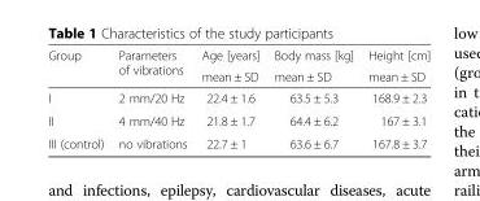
<table><thead><tr><td rowspan="2">Group</td><td rowspan="2">Parameters of vibrations</td><td rowspan="2">Age [years] mean ± SD</td><td rowspan="2">Body mass [kg] mean ± SD</td><td rowspan="2">Height [cm] mean ± SD</td></tr><tr></tr></thead><tbody><tr><td>I</td><td>2 mm/20 Hz</td><td>22.4 ± 1.6</td><td>63.5 ± 5.3</td><td>168.9 ± 2.3</td></tr><tr><td>II</td><td>4 mm/40 Hz</td><td>21.8 ± 1.7</td><td>64.4 ± 6.2</td><td>167 ± 3.1</td></tr><tr><td>III (control)</td><td>no vibrations</td><td>22.7 ± 1</td><td>63.6 ± 6.7</td><td>167.8 ± 3.7</td></tr></tbody></table>